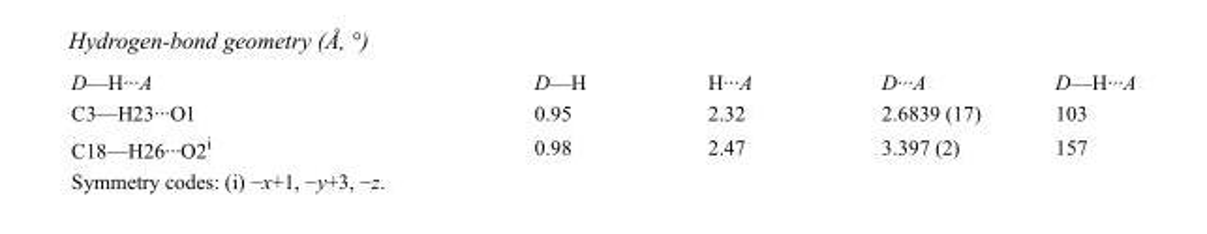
<table><tbody><tr><td>D—H···A</td><td>D—H</td><td>H···A</td><td>D···A</td><td>D—H···A</td></tr><tr><td>C3—H23···O1</td><td>0.95</td><td>2.32</td><td>2.6839 (17)</td><td>103</td></tr><tr><td>C18—H26···O2<sup>i</sup></td><td>0.98</td><td>2.47</td><td>3.397 (2)</td><td>157</td></tr></tbody></table>